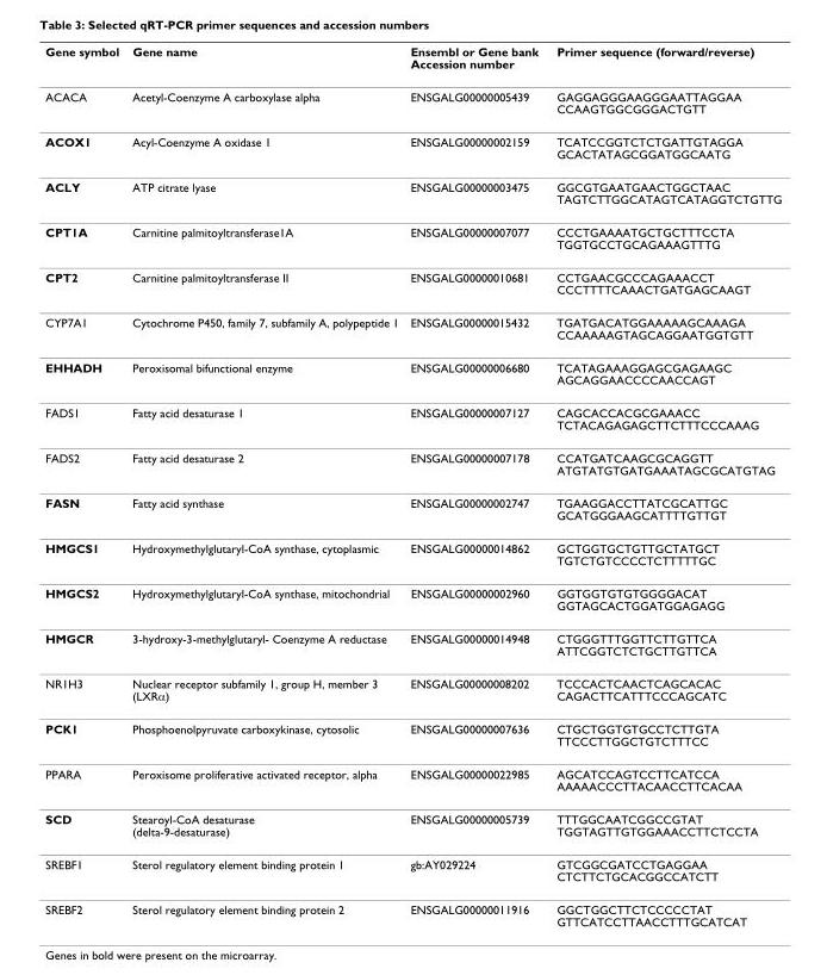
<table><thead><tr><td>Gene symbol</td><td>Gene name</td><td>Ensembl or Gene bank Accession number</td><td>Primer sequence (forward/reverse)</td></tr></thead><tbody><tr><td>ACACA</td><td>Acetyl-Coenzyme A carboxylase alpha</td><td>ENSGALG00000005439</td><td>GAGGAGGGAAGGGAATTAGGAA CCAAGTGGCGGGACTGTT</td></tr><tr><td>ACOX1</td><td>Acyl-Coenzyme A oxidase 1</td><td>ENSGALG00000002159</td><td>TCATCCGGTCTCTGATTGTAGGA GCACTATAGCGGATGGCAATG</td></tr><tr><td>ACLY</td><td>ATP citrate lyase</td><td>ENSGALG00000003475</td><td>GGCGTGAATGAACTGGCTAAC TAGTCTTGGCATAGTCATAGGTCTGTTG</td></tr><tr><td>CPT1A</td><td>Carnitine palmitoyltransferase1A</td><td>ENSGALG00000007077</td><td>CCCTGAAAATGCTGCTTTCCTA TGGTGCCTGCAGAAAGTTTG</td></tr><tr><td>CPT2</td><td>Carnitine palmitoyltransferase II</td><td>ENSGALG00000010681</td><td>CCTGAACGCCCAGAAACCT CCCTTTTCAAACTGATGAGCAAGT</td></tr><tr><td>CYP7A1</td><td>Cytochrome P450, family 7, subfamily A, polypeptide 1</td><td>ENSGALG00000015432</td><td>TGATGACATGGAAAAAGCAAAGA CCAAAAAGTAGCAGGAATGGTGTT</td></tr><tr><td>EHHADH</td><td>Peroxisomal bifunctional enzyme</td><td>ENSGALG00000006680</td><td>TCATAGAAAGGAGCGAGAAGC AGCAGGAACCCCAACCAGT</td></tr><tr><td>FADS1</td><td>Fatty acid desaturase 1</td><td>ENSGALG00000007127</td><td>CAGCACCACGCGAAACC TCTACAGAGAGCTTCTTTCCCAAAG</td></tr><tr><td>FADS2</td><td>Fatty acid desaturase 2</td><td>ENSGALG00000007178</td><td>CCATGATCAAGCGCAGGTT ATGTATGTGATGAAATAGCGCATGTAG</td></tr><tr><td>FASN</td><td>Fatty acid synthase</td><td>ENSGALG00000002747</td><td>TGAAGGACCTTATCGCATTGC GCATGGGAAGCATTTTGTTGT</td></tr><tr><td>HMGCS1</td><td>Hydroxymethylglutaryl-CoA synthase, cytoplasmic</td><td>ENSGALG00000014862</td><td>GCTGGTGCTGTTGCTATGCT TGTCTGTCCCCTCTTTTTGC</td></tr><tr><td>HMGCS2</td><td>Hydroxymethylglutaryl-CoA synthase, mitochondrial</td><td>ENSGALG00000002960</td><td>GGTGGTGTGTGGGGACAT GGTAGCACTGGATGGAGAGG</td></tr><tr><td>HMGCR</td><td>3-hydroxy-3-methylglutaryl- Coenzyme A reductase</td><td>ENSGALG00000014948</td><td>CTGGGTTTGGTTCTTGTTCA ATTCGGTCTCTGCTTGTTCA</td></tr><tr><td>NR1H3</td><td>Nuclear receptor subfamily 1, group H, member 3 (LXRα)</td><td>ENSGALG00000008202</td><td>TCCCACTCAACTCAGCACAC CAGACTTCATTTCCCAGCATC</td></tr><tr><td>PCK1</td><td>Phosphoenolpyruvate carboxykinase, cytosolic</td><td>ENSGALG00000007636</td><td>CTGCTGGTGTGCCTCTTGTA TTCCCTTGGCTGTCTTTCC</td></tr><tr><td>PPARA</td><td>Peroxisome proliferative activated receptor, alpha</td><td>ENSGALG00000022985</td><td>AGCATCCAGTCCTTCATCCA AAAAACCCTTACAACCTTCACAA</td></tr><tr><td>SCD</td><td>Stearoyl-CoA desaturase (delta-9-desaturase)</td><td>ENSGALG00000005739</td><td>TTTGGCAATCGGCCGTAT TGGTAGTTGTGGAAACCTTCTCCTA</td></tr><tr><td>SREBF1</td><td>Sterol regulatory element binding protein 1</td><td>gb:AY029224</td><td>GTCGGCGATCCTGAGGAA CTCTTCTGCACGGCCATCTT</td></tr><tr><td>SREBF2</td><td>Sterol regulatory element binding protein 2</td><td>ENSGALG00000011916</td><td>GGCTGGCTTCTCCCCCTAT GTTCATCCTTAACCTTTGCATCAT</td></tr></tbody></table>